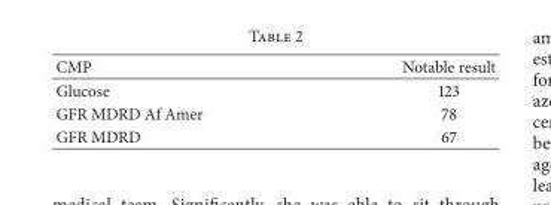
<table><thead><tr><td>CMP</td><td>Notable result</td></tr></thead><tbody><tr><td>Glucose</td><td>123</td></tr><tr><td>GFR MDRD Af Amer</td><td>78</td></tr><tr><td>GFR MDRD</td><td>67</td></tr></tbody></table>